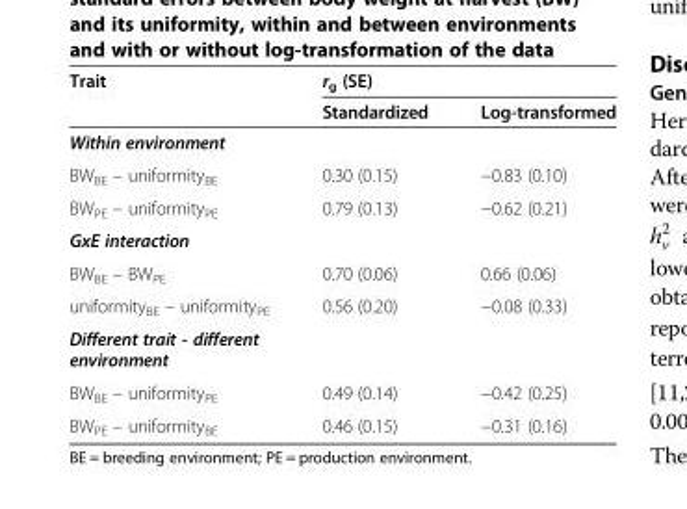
<table><thead><tr><td rowspan="2">Trait</td><td colspan="2">r<sub>g</sub> (SE)</td></tr><tr><td>Standardized</td><td>Log-transformed</td></tr></thead><tbody><tr><td colspan="3">Within environment</td></tr><tr><td>BW<sub>BE</sub> – uniformity<sub>BE</sub></td><td>0.30 (0.15)</td><td>−0.83 (0.10)</td></tr><tr><td>BW<sub>PE</sub> – uniformity<sub>PE</sub></td><td>0.79 (0.13)</td><td>−0.62 (0.21)</td></tr><tr><td colspan="3">GxE interaction</td></tr><tr><td>BW<sub>BE</sub> – BW<sub>PE</sub></td><td>0.70 (0.06)</td><td>0.66 (0.06)</td></tr><tr><td>uniformity<sub>BE</sub> – uniformity<sub>PE</sub></td><td>0.56 (0.20)</td><td>−0.08 (0.33)</td></tr><tr><td colspan="3">Different trait - different environment</td></tr><tr><td>BW<sub>BE</sub> – uniformity<sub>PE</sub></td><td>0.49 (0.14)</td><td>−0.42 (0.25)</td></tr><tr><td>BW<sub>PE</sub> – uniformity<sub>BE</sub></td><td>0.46 (0.15)</td><td>−0.31 (0.16)</td></tr></tbody></table>